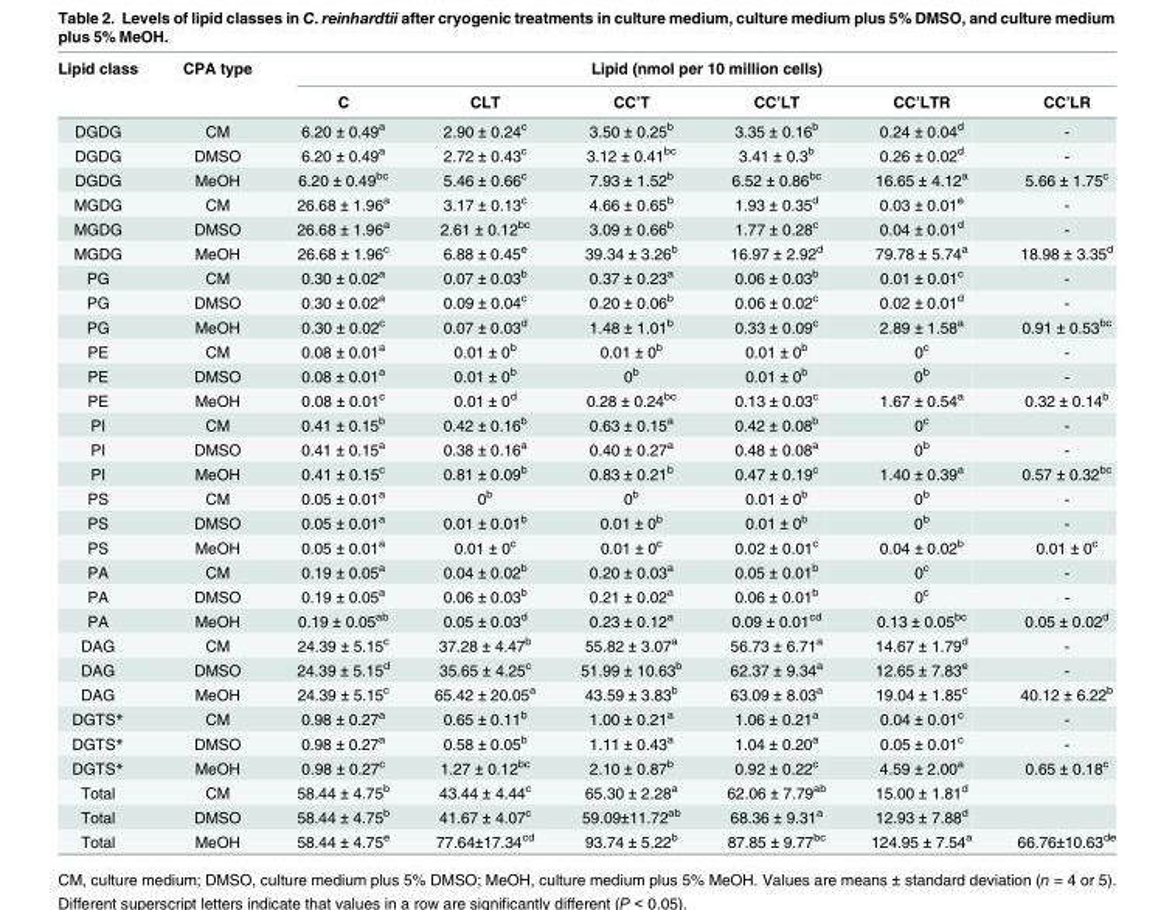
<table><thead><tr><td rowspan="2">Lipid class</td><td rowspan="2">CPA type</td><td colspan="6">Lipid (nmol per 10 million cells)</td></tr><tr><td>C</td><td>CLT</td><td>CC’T</td><td>CC’LT</td><td>CC’LTR</td><td>CC’LR</td></tr></thead><tbody><tr><td>DGDG</td><td>CM</td><td>6.20 ± 0.49<sup>a</sup></td><td>2.90 ± 0.24<sup>c</sup></td><td>3.50 ± 0.25<sup>b</sup></td><td>3.35 ± 0.16<sup>b</sup></td><td>0.24 ± 0.04<sup>d</sup></td><td>-</td></tr><tr><td>DGDG</td><td>DMSO</td><td>6.20 ± 0.49<sup>a</sup></td><td>2.72 ± 0.43<sup>c</sup></td><td>3.12 ± 0.41<sup>bc</sup></td><td>3.41 ± 0.3<sup>b</sup></td><td>0.26 ± 0.02<sup>d</sup></td><td>-</td></tr><tr><td>DGDG</td><td>MeOH</td><td>6.20 ± 0.49<sup>bc</sup></td><td>5.46 ± 0.66<sup>c</sup></td><td>7.93 ± 1.52<sup>b</sup></td><td>6.52 ± 0.86<sup>bc</sup></td><td>16.65 ± 4.12<sup>a</sup></td><td>5.66 ± 1.75<sup>c</sup></td></tr><tr><td>MGDG</td><td>CM</td><td>26.68 ± 1.96<sup>a</sup></td><td>3.17 ± 0.13<sup>c</sup></td><td>4.66 ± 0.65<sup>b</sup></td><td>1.93 ± 0.35<sup>d</sup></td><td>0.03 ± 0.01<sup>e</sup></td><td>-</td></tr><tr><td>MGDG</td><td>DMSO</td><td>26.68 ± 1.96<sup>a</sup></td><td>2.61 ± 0.12<sup>bc</sup></td><td>3.09 ± 0.66<sup>b</sup></td><td>1.77 ± 0.28<sup>c</sup></td><td>0.04 ± 0.01<sup>d</sup></td><td>-</td></tr><tr><td>MGDG</td><td>MeOH</td><td>26.68 ± 1.96<sup>c</sup></td><td>6.88 ± 0.45<sup>e</sup></td><td>39.34 ± 3.26<sup>b</sup></td><td>16.97 ± 2.92<sup>d</sup></td><td>79.78 ± 5.74<sup>a</sup></td><td>18.98 ± 3.35<sup>d</sup></td></tr><tr><td>PG</td><td>CM</td><td>0.30 ± 0.02<sup>a</sup></td><td>0.07 ± 0.03<sup>b</sup></td><td>0.37 ± 0.23<sup>a</sup></td><td>0.06 ± 0.03<sup>b</sup></td><td>0.01 ± 0.01<sup>c</sup></td><td>-</td></tr><tr><td>PG</td><td>DMSO</td><td>0.30 ± 0.02<sup>a</sup></td><td>0.09 ± 0.04<sup>c</sup></td><td>0.20 ± 0.06<sup>b</sup></td><td>0.06 ± 0.02<sup>c</sup></td><td>0.02 ± 0.01<sup>d</sup></td><td>-</td></tr><tr><td>PG</td><td>MeOH</td><td>0.30 ± 0.02<sup>c</sup></td><td>0.07 ± 0.03<sup>d</sup></td><td>1.48 ± 1.01<sup>b</sup></td><td>0.33 ± 0.09<sup>c</sup></td><td>2.89 ± 1.58<sup>a</sup></td><td>0.91 ± 0.53<sup>bc</sup></td></tr><tr><td>PE</td><td>CM</td><td>0.08 ± 0.01<sup>a</sup></td><td>0.01 ± 0<sup>b</sup></td><td>0.01 ± 0<sup>b</sup></td><td>0.01 ± 0<sup>b</sup></td><td>0<sup>c</sup></td><td>-</td></tr><tr><td>PE</td><td>DMSO</td><td>0.08 ± 0.01<sup>a</sup></td><td>0.01 ± 0<sup>b</sup></td><td>0<sup>b</sup></td><td>0.01 ± 0<sup>b</sup></td><td>0<sup>b</sup></td><td>-</td></tr><tr><td>PE</td><td>MeOH</td><td>0.08 ± 0.01<sup>c</sup></td><td>0.01 ± 0<sup>d</sup></td><td>0.28 ± 0.24<sup>bc</sup></td><td>0.13 ± 0.03<sup>c</sup></td><td>1.67 ± 0.54<sup>a</sup></td><td>0.32 ± 0.14<sup>b</sup></td></tr><tr><td>PI</td><td>CM</td><td>0.41 ± 0.15<sup>b</sup></td><td>0.42 ± 0.16<sup>b</sup></td><td>0.63 ± 0.15<sup>a</sup></td><td>0.42 ± 0.08<sup>b</sup></td><td>0<sup>c</sup></td><td>-</td></tr><tr><td>PI</td><td>DMSO</td><td>0.41 ± 0.15<sup>a</sup></td><td>0.38 ± 0.16<sup>a</sup></td><td>0.40 ± 0.27<sup>a</sup></td><td>0.48 ± 0.08<sup>a</sup></td><td>0<sup>b</sup></td><td>-</td></tr><tr><td>PI</td><td>MeOH</td><td>0.41 ± 0.15<sup>c</sup></td><td>0.81 ± 0.09<sup>b</sup></td><td>0.83 ± 0.21<sup>b</sup></td><td>0.47 ± 0.19<sup>c</sup></td><td>1.40 ± 0.39<sup>a</sup></td><td>0.57 ± 0.32<sup>bc</sup></td></tr><tr><td>PS</td><td>CM</td><td>0.05 ± 0.01<sup>a</sup></td><td>0<sup>b</sup></td><td>0<sup>b</sup></td><td>0.01 ± 0<sup>b</sup></td><td>0<sup>b</sup></td><td>-</td></tr><tr><td>PS</td><td>DMSO</td><td>0.05 ± 0.01<sup>a</sup></td><td>0.01 ± 0.01<sup>b</sup></td><td>0.01 ± 0<sup>b</sup></td><td>0.01 ± 0<sup>b</sup></td><td>0<sup>b</sup></td><td>-</td></tr><tr><td>PS</td><td>MeOH</td><td>0.05 ± 0.01<sup>a</sup></td><td>0.01 ± 0<sup>c</sup></td><td>0.01 ± 0<sup>c</sup></td><td>0.02 ± 0.01<sup>c</sup></td><td>0.04 ± 0.02<sup>b</sup></td><td>0.01 ± 0<sup>c</sup></td></tr><tr><td>PA</td><td>CM</td><td>0.19 ± 0.05<sup>a</sup></td><td>0.04 ± 0.02<sup>b</sup></td><td>0.20 ± 0.03<sup>a</sup></td><td>0.05 ± 0.01<sup>b</sup></td><td>0<sup>c</sup></td><td>-</td></tr><tr><td>PA</td><td>DMSO</td><td>0.19 ± 0.05<sup>a</sup></td><td>0.06 ± 0.03<sup>b</sup></td><td>0.21 ± 0.02<sup>a</sup></td><td>0.06 ± 0.01<sup>b</sup></td><td>0<sup>c</sup></td><td>-</td></tr><tr><td>PA</td><td>MeOH</td><td>0.19 ± 0.05<sup>ab</sup></td><td>0.05 ± 0.03<sup>d</sup></td><td>0.23 ± 0.12<sup>a</sup></td><td>0.09 ± 0.01<sup>cd</sup></td><td>0.13 ± 0.05<sup>bc</sup></td><td>0.05 ± 0.02<sup>d</sup></td></tr><tr><td>DAG</td><td>CM</td><td>24.39 ± 5.15<sup>c</sup></td><td>37.28 ± 4.47<sup>b</sup></td><td>55.82 ± 3.07<sup>a</sup></td><td>56.73 ± 6.71<sup>a</sup></td><td>14.67 ± 1.79<sup>d</sup></td><td>-</td></tr><tr><td>DAG</td><td>DMSO</td><td>24.39 ± 5.15<sup>d</sup></td><td>35.65 ± 4.25<sup>c</sup></td><td>51.99 ± 10.63<sup>b</sup></td><td>62.37 ± 9.34<sup>a</sup></td><td>12.65 ± 7.83<sup>e</sup></td><td>-</td></tr><tr><td>DAG</td><td>MeOH</td><td>24.39 ± 5.15<sup>c</sup></td><td>65.42 ± 20.05<sup>a</sup></td><td>43.59 ± 3.83<sup>b</sup></td><td>63.09 ± 8.03<sup>a</sup></td><td>19.04 ± 1.85<sup>c</sup></td><td>40.12 ± 6.22<sup>b</sup></td></tr><tr><td>DGTS*</td><td>CM</td><td>0.98 ± 0.27<sup>a</sup></td><td>0.65 ± 0.11<sup>b</sup></td><td>1.00 ± 0.21<sup>a</sup></td><td>1.06 ± 0.21<sup>a</sup></td><td>0.04 ± 0.01<sup>c</sup></td><td>-</td></tr><tr><td>DGTS*</td><td>DMSO</td><td>0.98 ± 0.27<sup>a</sup></td><td>0.58 ± 0.05<sup>b</sup></td><td>1.11 ± 0.43<sup>a</sup></td><td>1.04 ± 0.20<sup>a</sup></td><td>0.05 ± 0.01<sup>c</sup></td><td>-</td></tr><tr><td>DGTS*</td><td>MeOH</td><td>0.98 ± 0.27<sup>c</sup></td><td>1.27 ± 0.12<sup>bc</sup></td><td>2.10 ± 0.87<sup>b</sup></td><td>0.92 ± 0.22<sup>c</sup></td><td>4.59 ± 2.00<sup>a</sup></td><td>0.65 ± 0.18<sup>c</sup></td></tr><tr><td>Total</td><td>CM</td><td>58.44 ± 4.75<sup>b</sup></td><td>43.44 ± 4.44<sup>c</sup></td><td>65.30 ± 2.28<sup>a</sup></td><td>62.06 ± 7.79<sup>ab</sup></td><td>15.00 ± 1.81<sup>d</sup></td><td></td></tr><tr><td>Total</td><td>DMSO</td><td>58.44 ± 4.75<sup>b</sup></td><td>41.67 ± 4.07<sup>c</sup></td><td>59.09±11.72<sup>ab</sup></td><td>68.36 ± 9.31<sup>a</sup></td><td>12.93 ± 7.88<sup>d</sup></td><td></td></tr><tr><td>Total</td><td>MeOH</td><td>58.44 ± 4.75<sup>e</sup></td><td>77.64±17.34<sup>cd</sup></td><td>93.74 ± 5.22<sup>b</sup></td><td>87.85 ± 9.77<sup>bc</sup></td><td>124.95 ± 7.54<sup>a</sup></td><td>66.76±10.63<sup>de</sup></td></tr></tbody></table>